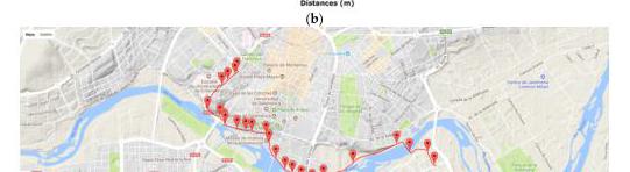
<table><thead><tr><td></td><td>Network to Estimate Consumption</td><td>Network to Estimate Speed</td></tr></thead><tbody><tr><td>Training data</td><td>70%</td><td>70%</td></tr><tr><td>Data validation</td><td>15%</td><td>15%</td></tr><tr><td>Test data</td><td>15%</td><td>15%</td></tr><tr><td>Mean absolute error</td><td>9.7% of error</td><td>2.3 km/h of error</td></tr></tbody></table>